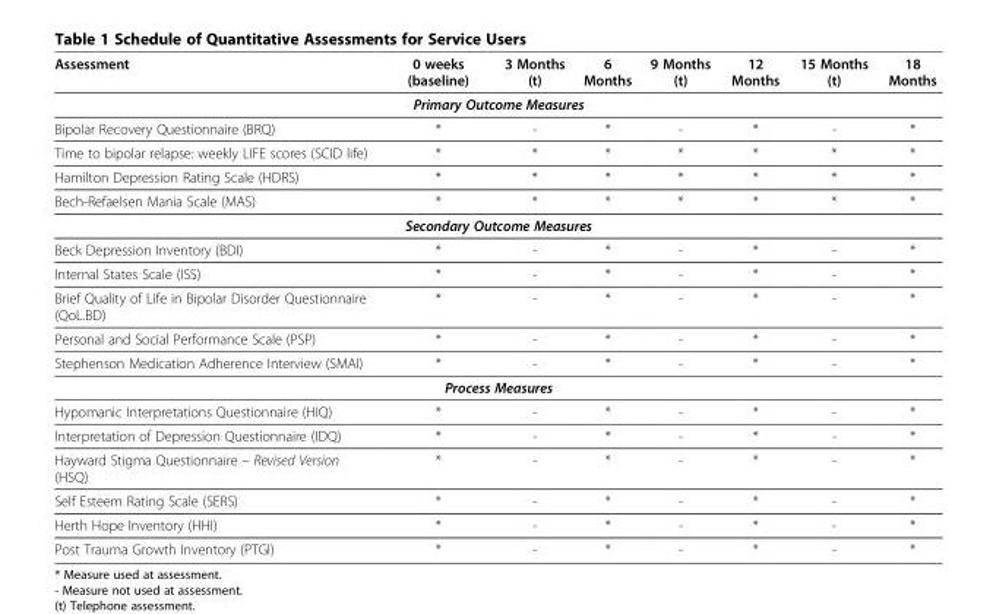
<table><thead><tr><td>Assessment</td><td>0 weeks (baseline)</td><td>3 Months (t)</td><td>6 Months</td><td>9 Months (t)</td><td>12 Months</td><td>15 Months (t)</td><td>18 Months</td></tr></thead><tbody><tr><td colspan="8">Primary Outcome Measures</td></tr><tr><td>Bipolar Recovery Questionnaire (BRQ)</td><td>*</td><td>-</td><td>*</td><td>-</td><td>*</td><td>-</td><td>*</td></tr><tr><td>Time to bipolar relapse: weekly LIFE scores (SCID life)</td><td>*</td><td>*</td><td>*</td><td>*</td><td>*</td><td>*</td><td>*</td></tr><tr><td>Hamilton Depression Rating Scale (HDRS)</td><td>*</td><td>*</td><td>*</td><td>*</td><td>*</td><td>*</td><td>*</td></tr><tr><td>Bech-Refaelsen Mania Scale (MAS)</td><td>*</td><td>*</td><td>*</td><td>*</td><td>*</td><td>*</td><td>*</td></tr><tr><td colspan="8">Secondary Outcome Measures</td></tr><tr><td>Beck Depression Inventory (BDI)</td><td>*</td><td>-</td><td>*</td><td>-</td><td>*</td><td>-</td><td>*</td></tr><tr><td>Internal States Scale (ISS)</td><td>*</td><td>-</td><td>*</td><td>-</td><td>*</td><td>-</td><td>*</td></tr><tr><td>Brief Quality of Life in Bipolar Disorder Questionnaire (QoL.BD)</td><td>*</td><td>-</td><td>*</td><td>-</td><td>*</td><td>-</td><td>*</td></tr><tr><td>Personal and Social Performance Scale (PSP)</td><td>*</td><td>-</td><td>*</td><td>-</td><td>*</td><td>-</td><td>*</td></tr><tr><td>Stephenson Medication Adherence Interview (SMAI)</td><td>*</td><td>-</td><td>*</td><td>-</td><td>*</td><td>-</td><td>*</td></tr><tr><td colspan="8">Process Measures</td></tr><tr><td>Hypomanic Interpretations Questionnaire (HIQ)</td><td>*</td><td>-</td><td>*</td><td>-</td><td>*</td><td>-</td><td>*</td></tr><tr><td>Interpretation of Depression Questionnaire (IDQ)</td><td>*</td><td>-</td><td>*</td><td>-</td><td>*</td><td>-</td><td>*</td></tr><tr><td>Hayward Stigma Questionnaire – Revised Version (HSQ)</td><td>*</td><td>-</td><td>*</td><td>-</td><td>*</td><td>-</td><td>*</td></tr><tr><td>Self Esteem Rating Scale (SERS)</td><td>*</td><td>-</td><td>*</td><td>-</td><td>*</td><td>-</td><td>*</td></tr><tr><td>Herth Hope Inventory (HHI)</td><td>*</td><td>-</td><td>*</td><td>-</td><td>*</td><td>-</td><td>*</td></tr><tr><td>Post Trauma Growth Inventory (PTGI)</td><td>*</td><td>-</td><td>*</td><td>-</td><td>*</td><td>-</td><td>*</td></tr></tbody></table>